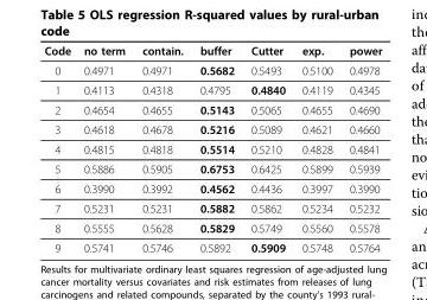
<table><thead><tr><td>Code</td><td>no term</td><td>contain.</td><td>buffer</td><td>Cutter</td><td>exp.</td><td>power</td></tr></thead><tbody><tr><td>0</td><td>0.4971</td><td>0.4971</td><td>0.5682</td><td>0.5493</td><td>0.5100</td><td>0.4978</td></tr><tr><td>1</td><td>0.4113</td><td>0.4318</td><td>0.4795</td><td>0.4840</td><td>0.4119</td><td>0.4345</td></tr><tr><td>2</td><td>0.4654</td><td>0.4655</td><td>0.5143</td><td>0.5065</td><td>0.4655</td><td>0.4690</td></tr><tr><td>3</td><td>0.4618</td><td>0.4678</td><td>0.5216</td><td>0.5089</td><td>0.4621</td><td>0.4660</td></tr><tr><td>4</td><td>0.4815</td><td>0.4818</td><td>0.5514</td><td>0.5210</td><td>0.4828</td><td>0.4841</td></tr><tr><td>5</td><td>0.5886</td><td>0.5905</td><td>0.6753</td><td>0.6425</td><td>0.5899</td><td>0.5939</td></tr><tr><td>6</td><td>0.3990</td><td>0.3992</td><td>0.4562</td><td>0.4436</td><td>0.3997</td><td>0.3990</td></tr><tr><td>7</td><td>0.5231</td><td>0.5231</td><td>0.5882</td><td>0.5862</td><td>0.5234</td><td>0.5232</td></tr><tr><td>8</td><td>0.5555</td><td>0.5628</td><td>0.5829</td><td>0.5749</td><td>0.5560</td><td>0.5578</td></tr><tr><td>9</td><td>0.5741</td><td>0.5746</td><td>0.5892</td><td>0.5909</td><td>0.5748</td><td>0.5764</td></tr></tbody></table>